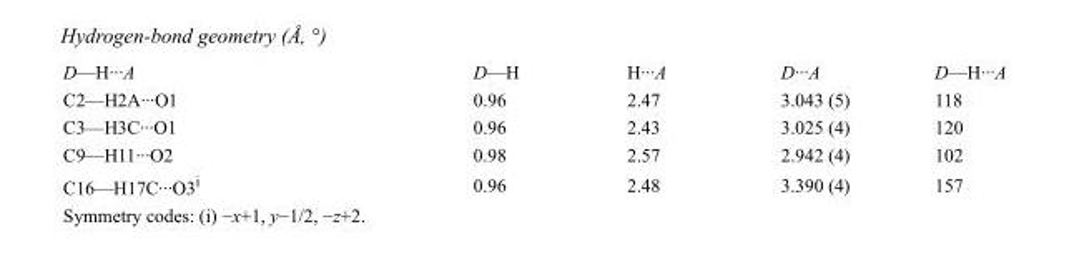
<table><tbody><tr><td>D—H···A</td><td>D—H</td><td>H···A</td><td>D···A</td><td>D—H···A</td></tr><tr><td>C2—H2A···O1</td><td>0.96</td><td>2.47</td><td>3.043 (5)</td><td>118</td></tr><tr><td>C3—H3C···O1</td><td>0.96</td><td>2.43</td><td>3.025 (4)</td><td>120</td></tr><tr><td>C9—H11···O2</td><td>0.98</td><td>2.57</td><td>2.942 (4)</td><td>102</td></tr><tr><td>C16—H17C···O3<sup>i</sup></td><td>0.96</td><td>2.48</td><td>3.390 (4)</td><td>157</td></tr></tbody></table>